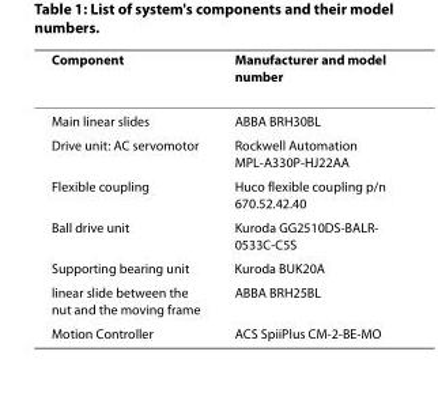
<table><thead><tr><td>Component</td><td>Manufacturer and model number</td></tr></thead><tbody><tr><td>Main linear slides</td><td>ABBA BRH30BL</td></tr><tr><td>Drive unit: AC servomotor</td><td>Rockwell Automation MPL-A330P-HJ22AA</td></tr><tr><td>Flexible coupling</td><td>Huco flexible coupling p/n 670.52.42.40</td></tr><tr><td>Ball drive unit</td><td>Kuroda GG2510DS-BALR- 0533C-C5S</td></tr><tr><td>Supporting bearing unit</td><td>Kuroda BUK20A</td></tr><tr><td>linear slide between the nut and the moving frame</td><td>ABBA BRH25BL</td></tr><tr><td>Motion Controller</td><td>ACS SpiiPlus CM-2-BE-MO</td></tr></tbody></table>